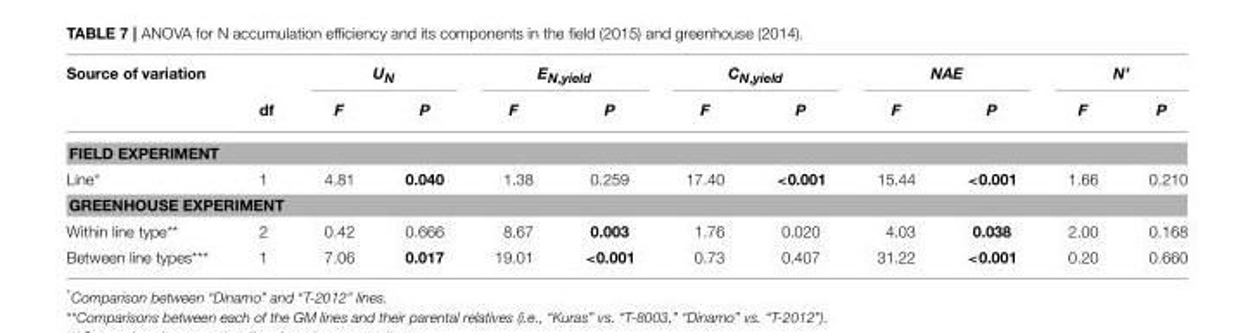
<table><thead><tr><td rowspan="2">Source of variation</td><td rowspan="2">df</td><td colspan="2">UN</td><td colspan="2">EN,yield</td><td colspan="2">C<sub>N,yield</sub></td><td colspan="2">NAE</td><td colspan="2">N’</td></tr><tr><td>F</td><td>P</td><td>F</td><td>P</td><td>F</td><td>P</td><td>F</td><td>P</td><td>F</td><td>P</td></tr></thead><tbody><tr><td colspan="12">FIELD EXPERIMENT</td></tr><tr><td>Line*</td><td>1</td><td>4.81</td><td>0.040</td><td>1.38</td><td>0.259</td><td>17.40</td><td>&lt;0.001</td><td>15.44</td><td>&lt;0.001</td><td>1.66</td><td>0.210</td></tr><tr><td colspan="12">GREENHOUSE EXPERIMENT</td></tr><tr><td>Within line type**</td><td>2</td><td>0.42</td><td>0.666</td><td>8.67</td><td>0.003</td><td>1.76</td><td>0.020</td><td>4.03</td><td>0.038</td><td>2.00</td><td>0.168</td></tr><tr><td>Between line types***</td><td>1</td><td>7.06</td><td>0.017</td><td>19.01</td><td>&lt;0.001</td><td>0.73</td><td>0.407</td><td>31.22</td><td>&lt;0.001</td><td>0.20</td><td>0.660</td></tr></tbody></table>